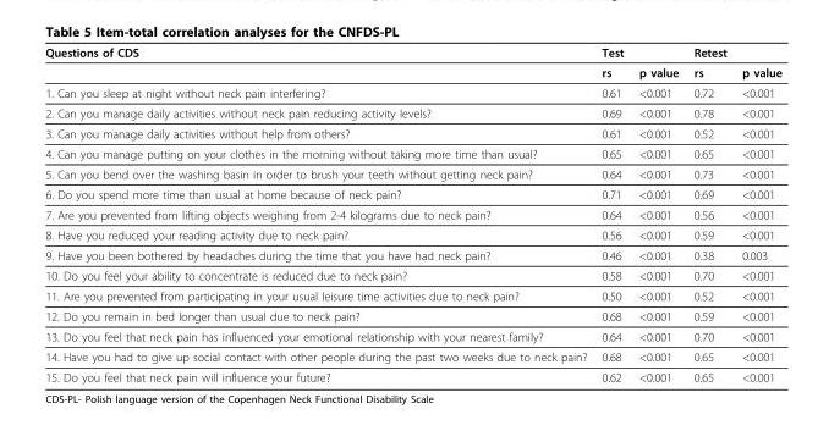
<table><thead><tr><td>Questions of CDS</td><td>Test</td><td></td><td>Retest</td><td></td></tr></thead><tbody><tr><td></td><td>rs</td><td>p value</td><td>rs</td><td>p value</td></tr><tr><td>1. Can you sleep at night without neck pain interfering?</td><td>0.61</td><td>&lt;0.001</td><td>0.72</td><td>&lt;0.001</td></tr><tr><td>2. Can you manage daily activities without neck pain reducing activity levels?</td><td>0.69</td><td>&lt;0.001</td><td>0.78</td><td>&lt;0.001</td></tr><tr><td>3. Can you manage daily activities without help from others?</td><td>0.61</td><td>&lt;0.001</td><td>0.52</td><td>&lt;0.001</td></tr><tr><td>4. Can you manage putting on your clothes in the morning without taking more time than usual?</td><td>0.65</td><td>&lt;0.001</td><td>0.65</td><td>&lt;0.001</td></tr><tr><td>5. Can you bend over the washing basin in order to brush your teeth without getting neck pain?</td><td>0.64</td><td>&lt;0.001</td><td>0.73</td><td>&lt;0.001</td></tr><tr><td>6. Do you spend more time than usual at home because of neck pain?</td><td>0.71</td><td>&lt;0.001</td><td>0.69</td><td>&lt;0.001</td></tr><tr><td>7. Are you prevented from lifting objects weighing from 2-4 kilograms due to neck pain?</td><td>0.64</td><td>&lt;0.001</td><td>0.56</td><td>&lt;0.001</td></tr><tr><td>8. Have you reduced your reading activity due to neck pain?</td><td>0.56</td><td>&lt;0.001</td><td>0.59</td><td>&lt;0.001</td></tr><tr><td>9. Have you been bothered by headaches during the time that you have had neck pain?</td><td>0.46</td><td>&lt;0.001</td><td>0.38</td><td>0.003</td></tr><tr><td>10. Do you feel your ability to concentrate is reduced due to neck pain?</td><td>0.58</td><td>&lt;0.001</td><td>0.70</td><td>&lt;0.001</td></tr><tr><td>11. Are you prevented from participating in your usual leisure time activities due to neck pain?</td><td>0.50</td><td>&lt;0.001</td><td>0.52</td><td>&lt;0.001</td></tr><tr><td>12. Do you remain in bed longer than usual due to neck pain?</td><td>0.68</td><td>&lt;0.001</td><td>0.59</td><td>&lt;0.001</td></tr><tr><td>13. Do you feel that neck pain has influenced your emotional relationship with your nearest family?</td><td>0.64</td><td>&lt;0.001</td><td>0.70</td><td>&lt;0.001</td></tr><tr><td>14. Have you had to give up social contact with other people during the past two weeks due to neck pain?</td><td>0.68</td><td>&lt;0.001</td><td>0.65</td><td>&lt;0.001</td></tr><tr><td>15. Do you feel that neck pain will influence your future?</td><td>0.62</td><td>&lt;0.001</td><td>0.65</td><td>&lt;0.001</td></tr></tbody></table>